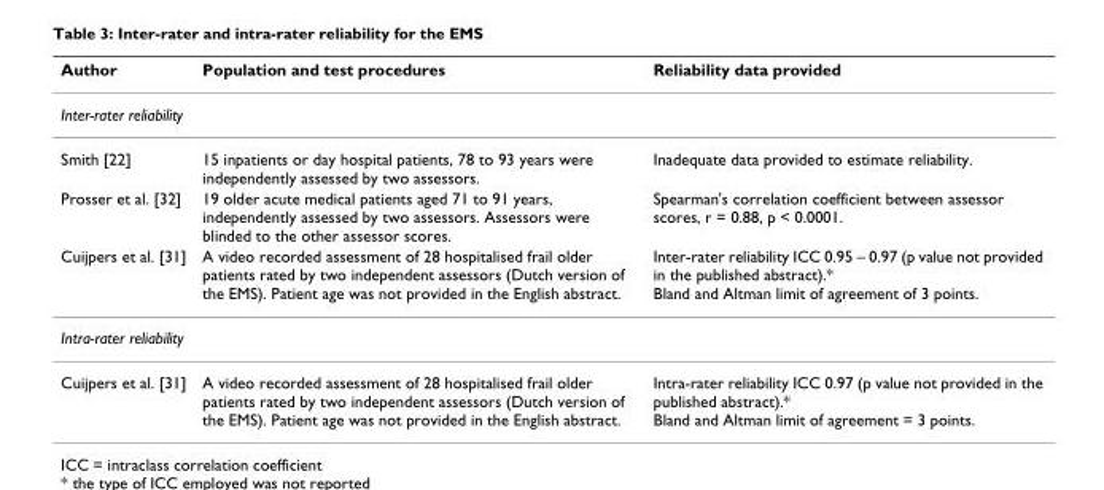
<table><thead><tr><td>Author</td><td>Population and test procedures</td><td>Reliability data provided</td></tr></thead><tbody><tr><td colspan="3">Inter-rater reliability</td></tr><tr><td>Smith [22]</td><td>15 inpatients or day hospital patients, 78 to 93 years were independently assessed by two assessors.</td><td>Inadequate data provided to estimate reliability.</td></tr><tr><td>Prosser et al. [32]</td><td>19 older acute medical patients aged 71 to 91 years, independently assessed by two assessors. Assessors were blinded to the other assessor scores.</td><td>Spearman&#x27;s correlation coefficient between assessor scores, r = 0.88, p &lt; 0.0001.</td></tr><tr><td>Cuijpers et al. [31]</td><td>A video recorded assessment of 28 hospitalised frail older patients rated by two independent assessors (Dutch version of the EMS). Patient age was not provided in the English abstract.</td><td>Inter-rater reliability ICC 0.95 – 0.97 (p value not provided in the published abstract).* Bland and Altman limit of agreement of 3 points.</td></tr><tr><td colspan="3">Intra-rater reliability</td></tr><tr><td>Cuijpers et al. [31]</td><td>A video recorded assessment of 28 hospitalised frail older patients rated by two independent assessors (Dutch version of the EMS). Patient age was not provided in the English abstract.</td><td>Intra-rater reliability ICC 0.97 (p value not provided in the published abstract).* Bland and Altman limit of agreement = 3 points.</td></tr></tbody></table>